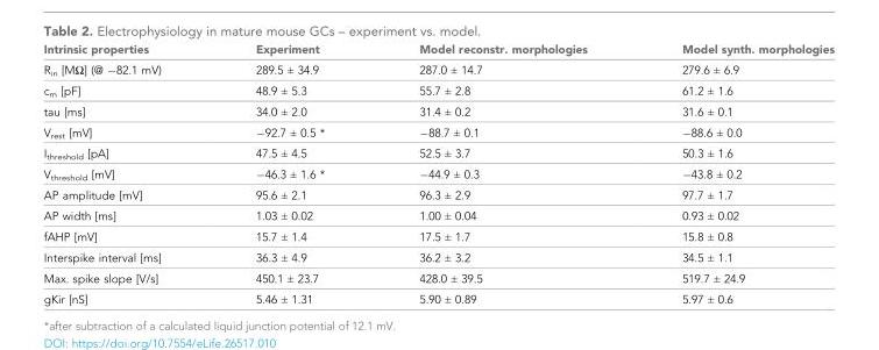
<table><thead><tr><td>Intrinsic properties</td><td>Experiment</td><td>Model reconstr. morphologies</td><td>Model synth. morphologies</td></tr></thead><tbody><tr><td>R<sub>in</sub> [MΩ] (@ −82.1 mV)</td><td>289.5 ± 34.9</td><td>287.0 ± 14.7</td><td>279.6 ± 6.9</td></tr><tr><td>c<sub>m</sub> [pF]</td><td>48.9 ± 5.3</td><td>55.7 ± 2.8</td><td>61.2 ± 1.6</td></tr><tr><td>tau [ms]</td><td>34.0 ± 2.0</td><td>31.4 ± 0.2</td><td>31.6 ± 0.1</td></tr><tr><td>V<sub>rest</sub> [mV]</td><td>−92.7 ± 0.5 *</td><td>−88.7 ± 0.1</td><td>−88.6 ± 0.0</td></tr><tr><td>I<sub>threshold</sub> [pA]</td><td>47.5 ± 4.5</td><td>52.5 ± 3.7</td><td>50.3 ± 1.6</td></tr><tr><td>V<sub>threshold</sub> [mV]</td><td>−46.3 ± 1.6 *</td><td>−44.9 ± 0.3</td><td>−43.8 ± 0.2</td></tr><tr><td>AP amplitude [mV]</td><td>95.6 ± 2.1</td><td>96.3 ± 2.9</td><td>97.7 ± 1.7</td></tr><tr><td>AP width [ms]</td><td>1.03 ± 0.02</td><td>1.00 ± 0.04</td><td>0.93 ± 0.02</td></tr><tr><td>fAHP [mV]</td><td>15.7 ± 1.4</td><td>17.5 ± 1.7</td><td>15.8 ± 0.8</td></tr><tr><td>Interspike interval [ms]</td><td>36.3 ± 4.9</td><td>36.2 ± 3.2</td><td>34.5 ± 1.1</td></tr><tr><td>Max. spike slope [V/s]</td><td>450.1 ± 23.7</td><td>428.0 ± 39.5</td><td>519.7 ± 24.9</td></tr><tr><td>gKir [nS]</td><td>5.46 ± 1.31</td><td>5.90 ± 0.89</td><td>5.97 ± 0.6</td></tr></tbody></table>